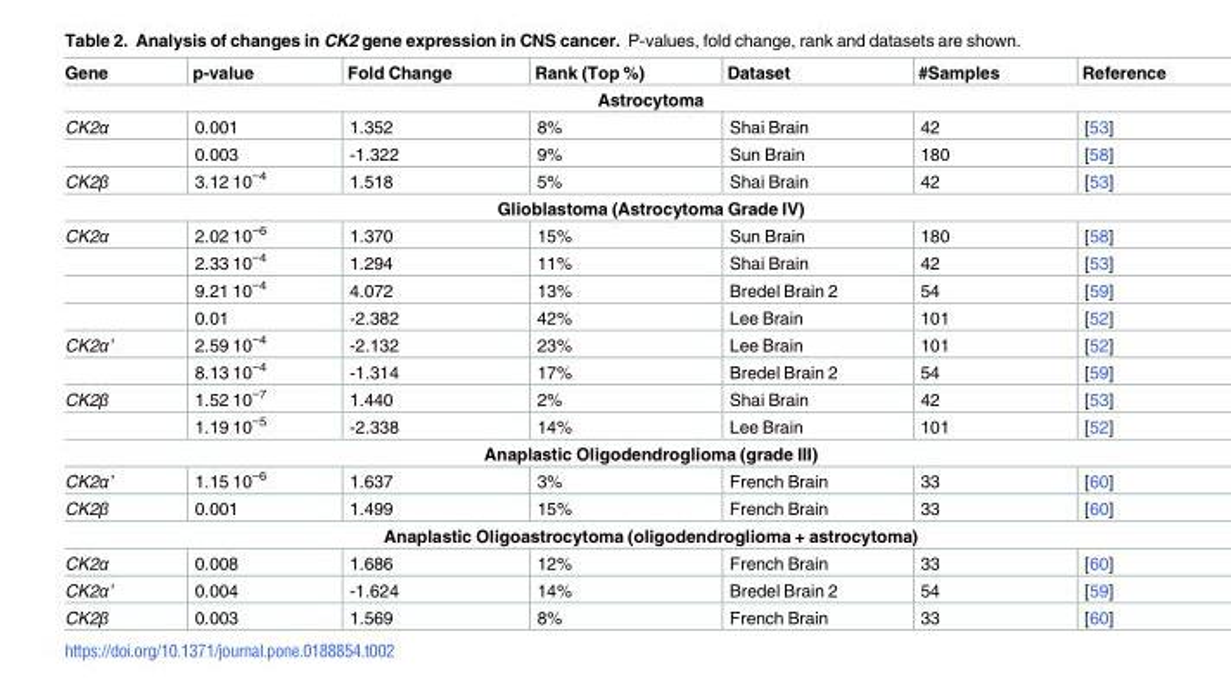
<table><thead><tr><td>Gene</td><td>p-value</td><td>Fold Change</td><td>Rank (Top %)</td><td>Dataset</td><td>#Samples</td><td>Reference</td></tr></thead><tbody><tr><td colspan="7">Astrocytoma</td></tr><tr><td rowspan="2">CK2α</td><td>0.001</td><td>1.352</td><td>8%</td><td>Shai Brain</td><td>42</td><td>[53]</td></tr><tr><td>0.003</td><td>-1.322</td><td>9%</td><td>Sun Brain</td><td>180</td><td>[58]</td></tr><tr><td>CK2β</td><td>3.12 10<sup>−4</sup></td><td>1.518</td><td>5%</td><td>Shai Brain</td><td>42</td><td>[53]</td></tr><tr><td colspan="7">Glioblastoma (Astrocytoma Grade IV)</td></tr><tr><td rowspan="4">CK2α</td><td>2.02 10<sup>−6</sup></td><td>1.370</td><td>15%</td><td>Sun Brain</td><td>180</td><td>[58]</td></tr><tr><td>2.33 10<sup>−4</sup></td><td>1.294</td><td>11%</td><td>Shai Brain</td><td>42</td><td>[53]</td></tr><tr><td>9.21 10<sup>−4</sup></td><td>4.072</td><td>13%</td><td>Bredel Brain 2</td><td>54</td><td>[59]</td></tr><tr><td>0.01</td><td>-2.382</td><td>42%</td><td>Lee Brain</td><td>101</td><td>[52]</td></tr><tr><td rowspan="2">CK2α’</td><td>2.59 10<sup>−4</sup></td><td>-2.132</td><td>23%</td><td>Lee Brain</td><td>101</td><td>[52]</td></tr><tr><td>8.13 10<sup>−4</sup></td><td>-1.314</td><td>17%</td><td>Bredel Brain 2</td><td>54</td><td>[59]</td></tr><tr><td rowspan="2">CK2β</td><td>1.52 10<sup>−7</sup></td><td>1.440</td><td>2%</td><td>Shai Brain</td><td>42</td><td>[53]</td></tr><tr><td>1.19 10<sup>−5</sup></td><td>-2.338</td><td>14%</td><td>Lee Brain</td><td>101</td><td>[52]</td></tr><tr><td colspan="7">Anaplastic Oligodendroglioma (grade III)</td></tr><tr><td>CK2α’</td><td>1.15 10<sup>−6</sup></td><td>1.637</td><td>3%</td><td>French Brain</td><td>33</td><td>[60]</td></tr><tr><td>CK2β</td><td>0.001</td><td>1.499</td><td>15%</td><td>French Brain</td><td>33</td><td>[60]</td></tr><tr><td colspan="7">Anaplastic Oligoastrocytoma (oligodendroglioma + astrocytoma)</td></tr><tr><td>CK2α</td><td>0.008</td><td>1.686</td><td>12%</td><td>French Brain</td><td>33</td><td>[60]</td></tr><tr><td>CK2α’</td><td>0.004</td><td>-1.624</td><td>14%</td><td>Bredel Brain 2</td><td>54</td><td>[59]</td></tr><tr><td>CK2β</td><td>0.003</td><td>1.569</td><td>8%</td><td>French Brain</td><td>33</td><td>[60]</td></tr></tbody></table>